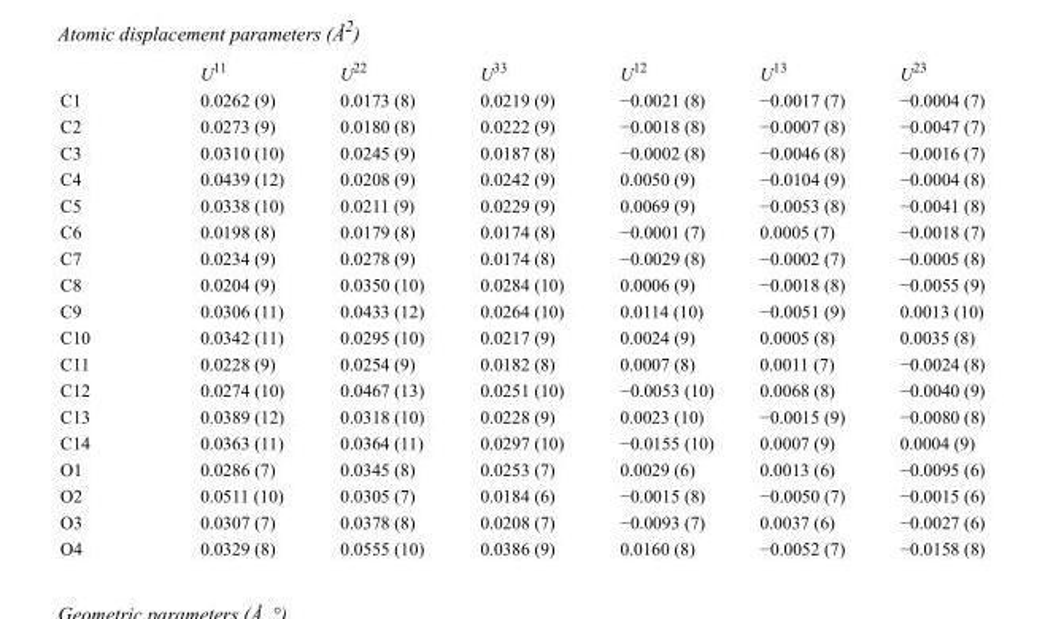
<table><thead><tr><td></td><td>U<sup>11</sup></td><td>U<sup>22</sup></td><td>U<sup>33</sup></td><td>U<sup>12</sup></td><td>U<sup>13</sup></td><td>U<sup>23</sup></td></tr></thead><tbody><tr><td>C1</td><td>0.0262 (9)</td><td>0.0173 (8)</td><td>0.0219 (9)</td><td>−0.0021 (8)</td><td>−0.0017 (7)</td><td>−0.0004 (7)</td></tr><tr><td>C2</td><td>0.0273 (9)</td><td>0.0180 (8)</td><td>0.0222 (9)</td><td>−0.0018 (8)</td><td>−0.0007 (8)</td><td>−0.0047 (7)</td></tr><tr><td>C3</td><td>0.0310 (10)</td><td>0.0245 (9)</td><td>0.0187 (8)</td><td>−0.0002 (8)</td><td>−0.0046 (8)</td><td>−0.0016 (7)</td></tr><tr><td>C4</td><td>0.0439 (12)</td><td>0.0208 (9)</td><td>0.0242 (9)</td><td>0.0050 (9)</td><td>−0.0104 (9)</td><td>−0.0004 (8)</td></tr><tr><td>C5</td><td>0.0338 (10)</td><td>0.0211 (9)</td><td>0.0229 (9)</td><td>0.0069 (9)</td><td>−0.0053 (8)</td><td>−0.0041 (8)</td></tr><tr><td>C6</td><td>0.0198 (8)</td><td>0.0179 (8)</td><td>0.0174 (8)</td><td>−0.0001 (7)</td><td>0.0005 (7)</td><td>−0.0018 (7)</td></tr><tr><td>C7</td><td>0.0234 (9)</td><td>0.0278 (9)</td><td>0.0174 (8)</td><td>−0.0029 (8)</td><td>−0.0002 (7)</td><td>−0.0005 (8)</td></tr><tr><td>C8</td><td>0.0204 (9)</td><td>0.0350 (10)</td><td>0.0284 (10)</td><td>0.0006 (9)</td><td>−0.0018 (8)</td><td>−0.0055 (9)</td></tr><tr><td>C9</td><td>0.0306 (11)</td><td>0.0433 (12)</td><td>0.0264 (10)</td><td>0.0114 (10)</td><td>−0.0051 (9)</td><td>0.0013 (10)</td></tr><tr><td>C10</td><td>0.0342 (11)</td><td>0.0295 (10)</td><td>0.0217 (9)</td><td>0.0024 (9)</td><td>0.0005 (8)</td><td>0.0035 (8)</td></tr><tr><td>C11</td><td>0.0228 (9)</td><td>0.0254 (9)</td><td>0.0182 (8)</td><td>0.0007 (8)</td><td>0.0011 (7)</td><td>−0.0024 (8)</td></tr><tr><td>C12</td><td>0.0274 (10)</td><td>0.0467 (13)</td><td>0.0251 (10)</td><td>−0.0053 (10)</td><td>0.0068 (8)</td><td>−0.0040 (9)</td></tr><tr><td>C13</td><td>0.0389 (12)</td><td>0.0318 (10)</td><td>0.0228 (9)</td><td>0.0023 (10)</td><td>−0.0015 (9)</td><td>−0.0080 (8)</td></tr><tr><td>C14</td><td>0.0363 (11)</td><td>0.0364 (11)</td><td>0.0297 (10)</td><td>−0.0155 (10)</td><td>0.0007 (9)</td><td>0.0004 (9)</td></tr><tr><td>O1</td><td>0.0286 (7)</td><td>0.0345 (8)</td><td>0.0253 (7)</td><td>0.0029 (6)</td><td>0.0013 (6)</td><td>−0.0095 (6)</td></tr><tr><td>O2</td><td>0.0511 (10)</td><td>0.0305 (7)</td><td>0.0184 (6)</td><td>−0.0015 (8)</td><td>−0.0050 (7)</td><td>−0.0015 (6)</td></tr><tr><td>O3</td><td>0.0307 (7)</td><td>0.0378 (8)</td><td>0.0208 (7)</td><td>−0.0093 (7)</td><td>0.0037 (6)</td><td>−0.0027 (6)</td></tr><tr><td>O4</td><td>0.0329 (8)</td><td>0.0555 (10)</td><td>0.0386 (9)</td><td>0.0160 (8)</td><td>−0.0052 (7)</td><td>−0.0158 (8)</td></tr></tbody></table>